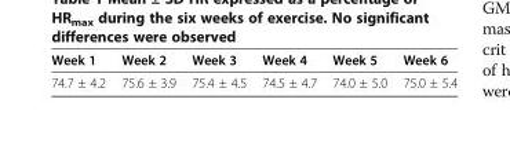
<table><thead><tr><td>Week 1</td><td>Week 2</td><td>Week 3</td><td>Week 4</td><td>Week 5</td><td>Week 6</td></tr></thead><tbody><tr><td>74.7 ± 4.2</td><td>75.6 ± 3.9</td><td>75.4 ± 4.5</td><td>74.5 ± 4.7</td><td>74.0 ± 5.0</td><td>75.0 ± 5.4</td></tr></tbody></table>